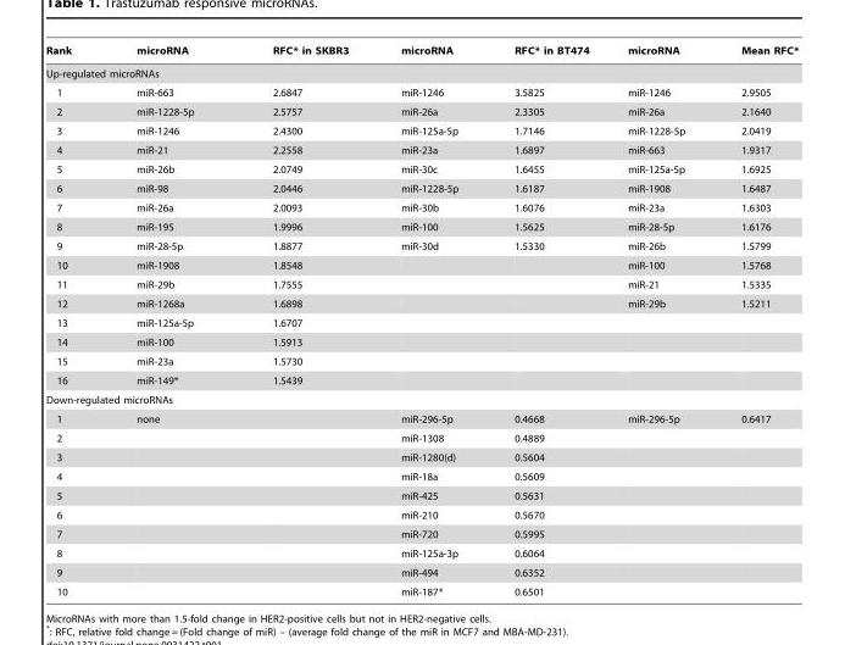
<table><thead><tr><td>Rank</td><td>microRNA</td><td>RFC* in SKBR3</td><td>microRNA</td><td>RFC* in BT474</td><td>microRNA</td><td>Mean RFC*</td></tr></thead><tbody><tr><td colspan="7">Up-regulated microRNAs</td></tr><tr><td>1</td><td>miR-663</td><td>2.6847</td><td>miR-1246</td><td>3.5825</td><td>miR-1246</td><td>2.9505</td></tr><tr><td>2</td><td>miR-1228-5p</td><td>2.5757</td><td>miR-26a</td><td>2.3305</td><td>miR-26a</td><td>2.1640</td></tr><tr><td>3</td><td>miR-1246</td><td>2.4300</td><td>miR-125a-5p</td><td>1.7146</td><td>miR-1228-5p</td><td>2.0419</td></tr><tr><td>4</td><td>miR-21</td><td>2.2558</td><td>miR-23a</td><td>1.6897</td><td>miR-663</td><td>1.9317</td></tr><tr><td>5</td><td>miR-26b</td><td>2.0749</td><td>miR-30c</td><td>1.6455</td><td>miR-125a-5p</td><td>1.6925</td></tr><tr><td>6</td><td>miR-98</td><td>2.0446</td><td>miR-1228-5p</td><td>1.6187</td><td>miR-1908</td><td>1.6487</td></tr><tr><td>7</td><td>miR-26a</td><td>2.0093</td><td>miR-30b</td><td>1.6076</td><td>miR-23a</td><td>1.6303</td></tr><tr><td>8</td><td>miR-195</td><td>1.9996</td><td>miR-100</td><td>1.5625</td><td>miR-28-5p</td><td>1.6176</td></tr><tr><td>9</td><td>miR-28-5p</td><td>1.8877</td><td>miR-30d</td><td>1.5330</td><td>miR-26b</td><td>1.5799</td></tr><tr><td>10</td><td>miR-1908</td><td>1.8548</td><td></td><td></td><td>miR-100</td><td>1.5768</td></tr><tr><td>11</td><td>miR-29b</td><td>1.7555</td><td></td><td></td><td>miR-21</td><td>1.5335</td></tr><tr><td>12</td><td>miR-1268a</td><td>1.6898</td><td></td><td></td><td>miR-29b</td><td>1.5211</td></tr><tr><td>13</td><td>miR-125a-5p</td><td>1.6707</td><td></td><td></td><td></td><td></td></tr><tr><td>14</td><td>miR-100</td><td>1.5913</td><td></td><td></td><td></td><td></td></tr><tr><td>15</td><td>miR-23a</td><td>1.5730</td><td></td><td></td><td></td><td></td></tr><tr><td>16</td><td>miR-149*</td><td>1.5439</td><td></td><td></td><td></td><td></td></tr><tr><td colspan="7">Down-regulated microRNAs</td></tr><tr><td>1</td><td>none</td><td></td><td>miR-296-5p</td><td>0.4668</td><td>miR-296-5p</td><td>0.6417</td></tr><tr><td>2</td><td></td><td></td><td>miR-1308</td><td>0.4889</td><td></td><td></td></tr><tr><td>3</td><td></td><td></td><td>miR-1280(d)</td><td>0.5604</td><td></td><td></td></tr><tr><td>4</td><td></td><td></td><td>miR-18a</td><td>0.5609</td><td></td><td></td></tr><tr><td>5</td><td></td><td></td><td>miR-425</td><td>0.5631</td><td></td><td></td></tr><tr><td>6</td><td></td><td></td><td>miR-210</td><td>0.5670</td><td></td><td></td></tr><tr><td>7</td><td></td><td></td><td>miR-720</td><td>0.5995</td><td></td><td></td></tr><tr><td>8</td><td></td><td></td><td>miR-125a-3p</td><td>0.6064</td><td></td><td></td></tr><tr><td>9</td><td></td><td></td><td>miR-494</td><td>0.6352</td><td></td><td></td></tr><tr><td>10</td><td></td><td></td><td>miR-187*</td><td>0.6501</td><td></td><td></td></tr></tbody></table>